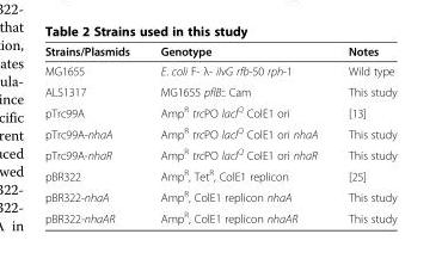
<table><thead><tr><td>Strains/Plasmids</td><td>Genotype</td><td>Notes</td></tr></thead><tbody><tr><td>MG1655</td><td>E. coli F- λ- ilvG rfb-50 rph-1</td><td>Wild type</td></tr><tr><td>ALS1317</td><td>MG1655 pflB:: Cam</td><td>This study</td></tr><tr><td>pTrc99A</td><td>Amp<sup>R</sup> trcPO lacI<sup>Q</sup> ColE1 ori</td><td>[13]</td></tr><tr><td>pTrc99A-nhaA</td><td>Amp<sup>R</sup> trcPO lacI<sup>Q</sup> ColE1 ori nhaA</td><td>This study</td></tr><tr><td>pTrc99A-nhaR</td><td>Amp<sup>R</sup> trcPO lacI<sup>Q</sup> ColE1 ori nhaR</td><td>This study</td></tr><tr><td>pBR322</td><td>Amp<sup>R</sup>, Tet<sup>R</sup>, ColE1 replicon</td><td>[25]</td></tr><tr><td>pBR322-nhaA</td><td>Amp<sup>R</sup>, ColE1 replicon nhaA</td><td>This study</td></tr><tr><td>pBR322-nhaAR</td><td>Amp<sup>R</sup>, ColE1 replicon nhaAR</td><td>This study</td></tr></tbody></table>